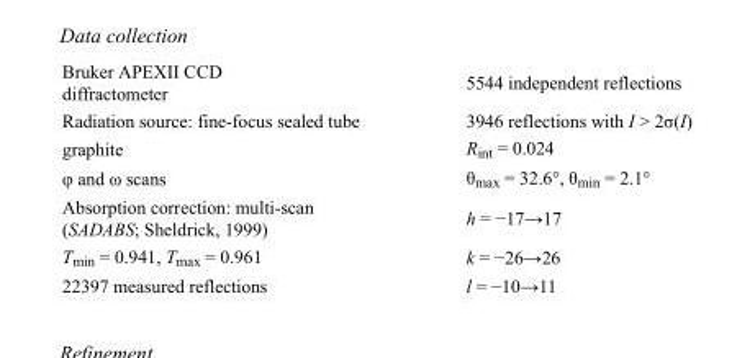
<table><tbody><tr><td>Bruker APEXII CCD diffractometer</td><td>5544 independent reflections</td></tr><tr><td>Radiation source: fine-focus sealed tube</td><td>3946 reflections with I &gt; 2σ(I)</td></tr><tr><td>graphite</td><td>R<sub>int</sub> = 0.024</td></tr><tr><td>φ and ω scans</td><td>θ<sub>max</sub> = 32.6°, θ<sub>min</sub> = 2.1°</td></tr><tr><td>Absorption correction: multi-scan (SADABS; Sheldrick, 1999)</td><td>h = −17→17</td></tr><tr><td>T<sub>min</sub> = 0.941, T<sub>max</sub> = 0.961</td><td>k = −26→26</td></tr><tr><td>22397 measured reflections</td><td>l = −10→11</td></tr></tbody></table>